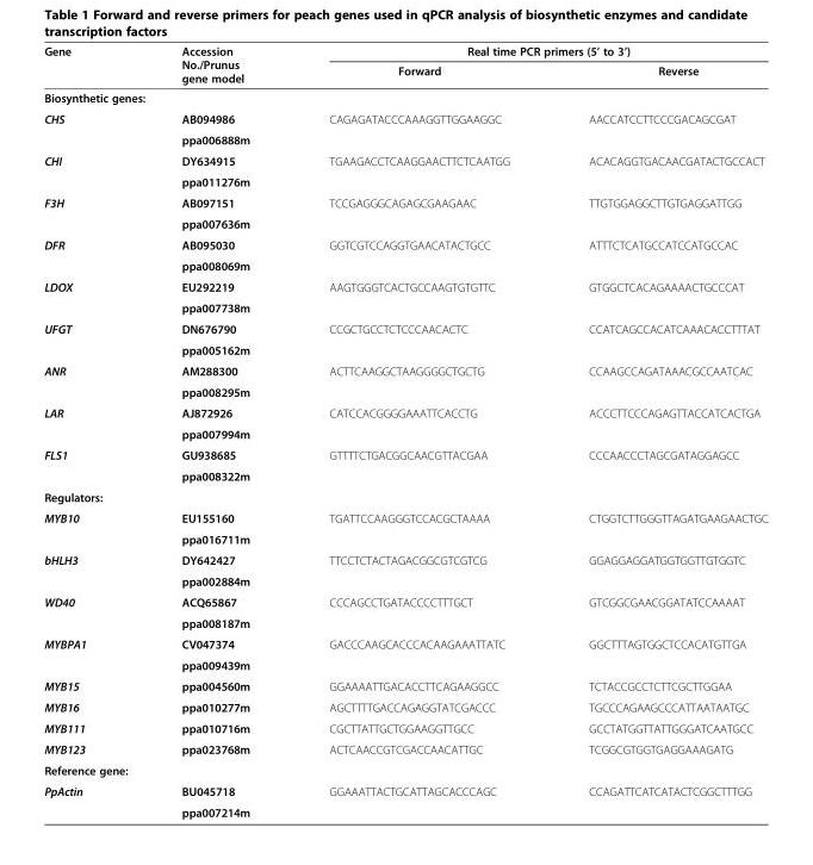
<table><thead><tr><td rowspan="2">Gene</td><td rowspan="2">Accession No./Prunus gene model</td><td colspan="2">Real time PCR primers (5’ to 3’)</td></tr><tr><td>Forward</td><td>Reverse</td></tr></thead><tbody><tr><td colspan="4">Biosynthetic genes:</td></tr><tr><td rowspan="2">CHS</td><td>AB094986</td><td rowspan="2">CAGAGATACCCAAAGGTTGGAAGGC</td><td rowspan="2">AACCATCCTTCCCGACAGCGAT</td></tr><tr><td>ppa006888m</td></tr><tr><td rowspan="2">CHI</td><td>DY634915</td><td rowspan="2">TGAAGACCTCAAGGAACTTCTCAATGG</td><td rowspan="2">ACACAGGTGACAACGATACTGCCACT</td></tr><tr><td>ppa011276m</td></tr><tr><td rowspan="2">F3H</td><td>AB097151</td><td rowspan="2">TCCGAGGGCAGAGCGAAGAAC</td><td rowspan="2">TTGTGGAGGCTTGTGAGGATTGG</td></tr><tr><td>ppa007636m</td></tr><tr><td rowspan="2">DFR</td><td>AB095030</td><td rowspan="2">GGTCGTCCAGGTGAACATACTGCC</td><td rowspan="2">ATTTCTCATGCCATCCATGCCAC</td></tr><tr><td>ppa008069m</td></tr><tr><td rowspan="2">LDOX</td><td>EU292219</td><td rowspan="2">AAGTGGGTCACTGCCAAGTGTGTTC</td><td rowspan="2">GTGGCTCACAGAAAACTGCCCAT</td></tr><tr><td>ppa007738m</td></tr><tr><td rowspan="2">UFGT</td><td>DN676790</td><td rowspan="2">CCGCTGCCTCTCCCAACACTC</td><td rowspan="2">CCATCAGCCACATCAAACACCTTTAT</td></tr><tr><td>ppa005162m</td></tr><tr><td rowspan="2">ANR</td><td>AM288300</td><td rowspan="2">ACTTCAAGGCTAAGGGGCTGCTG</td><td rowspan="2">CCAAGCCAGATAAACGCCAATCAC</td></tr><tr><td>ppa008295m</td></tr><tr><td rowspan="2">LAR</td><td>AJ872926</td><td rowspan="2">CATCCACGGGGAAATTCACCTG</td><td rowspan="2">ACCCTTCCCAGAGTTACCATCACTGA</td></tr><tr><td>ppa007994m</td></tr><tr><td rowspan="2">FLS1</td><td>GU938685</td><td rowspan="2">GTTTTCTGACGGCAACGTTACGAA</td><td rowspan="2">CCCAACCCTAGCGATAGGAGCC</td></tr><tr><td>ppa008322m</td></tr><tr><td colspan="4">Regulators:</td></tr><tr><td rowspan="2">MYB10</td><td>EU155160</td><td rowspan="2">TGATTCCAAGGGTCCACGCTAAAA</td><td rowspan="2">CTGGTCTTGGGTTAGATGAAGAACTGC</td></tr><tr><td>ppa016711m</td></tr><tr><td rowspan="2">bHLH3</td><td>DY642427</td><td rowspan="2">TTCCTCTACTAGACGGCGTCGTCG</td><td rowspan="2">GGAGGAGGATGGTGGTTGTGGTC</td></tr><tr><td>ppa002884m</td></tr><tr><td rowspan="2">WD40</td><td>ACQ65867</td><td rowspan="2">CCCAGCCTGATACCCCTTTGCT</td><td rowspan="2">GTCGGCGAACGGATATCCAAAAT</td></tr><tr><td>ppa008187m</td></tr><tr><td rowspan="2">MYBPA1</td><td>CV047374</td><td rowspan="2">GACCCAAGCACCCACAAGAAATTATC</td><td rowspan="2">GGCTTTAGTGGCTCCACATGTTGA</td></tr><tr><td>ppa009439m</td></tr><tr><td>MYB15</td><td>ppa004560m</td><td>GGAAAATTGACACCTTCAGAAGGCC</td><td>TCTACCGCCTCTTCGCTTGGAA</td></tr><tr><td>MYB16</td><td>ppa010277m</td><td>AGCTTTTGACCAGAGGTATCGACCC</td><td>TGCCCAGAAGCCCATTAATAATGC</td></tr><tr><td>MYB111</td><td>ppa010716m</td><td>CGCTTATTGCTGGAAGGTTGCC</td><td>GCCTATGGTTATTGGGATCAATGCC</td></tr><tr><td>MYB123</td><td>ppa023768m</td><td>ACTCAACCGTCGACCAACATTGC</td><td>TCGGCGTGGTGAGGAAAGATG</td></tr><tr><td colspan="4">Reference gene:</td></tr><tr><td rowspan="2">PpActin</td><td>BU045718</td><td rowspan="2">GGAAATTACTGCATTAGCACCCAGC</td><td rowspan="2">CCAGATTCATCATACTCGGCTTTGG</td></tr><tr><td>ppa007214m</td></tr></tbody></table>